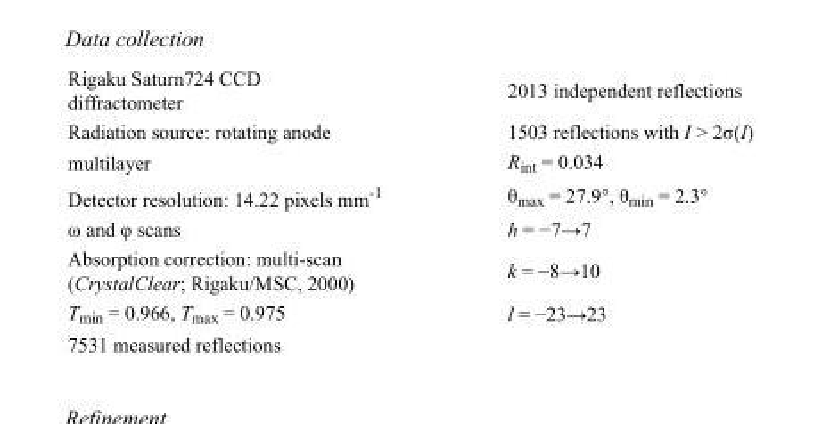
<table><tbody><tr><td>Rigaku Saturn724 CCD diffractometer</td><td>2013 independent reflections</td></tr><tr><td>Radiation source: rotating anode</td><td>1503 reflections with I &gt; 2σ(I)</td></tr><tr><td>multilayer</td><td>R<sub>int</sub> = 0.034</td></tr><tr><td>Detector resolution: 14.22 pixels mm<sup>-1</sup></td><td>θ<sub>max</sub> = 27.9°, θ<sub>min</sub> = 2.3°</td></tr><tr><td>ω and φ scans</td><td>h = −7→7</td></tr><tr><td>Absorption correction: multi-scan (CrystalClear; Rigaku/MSC, 2000)</td><td>k = −8→10</td></tr><tr><td>T<sub>min</sub> = 0.966, T<sub>max</sub> = 0.975</td><td>l = −23→23</td></tr><tr><td>7531 measured reflections</td><td></td></tr></tbody></table>